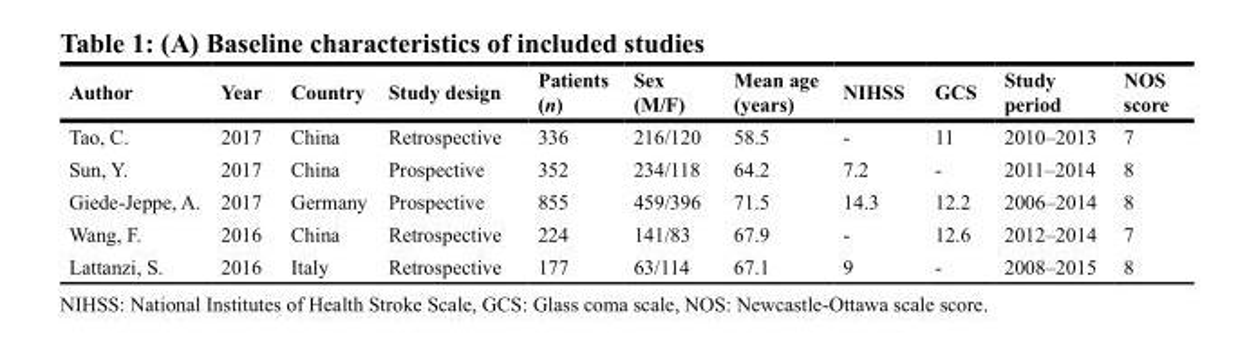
<table><thead><tr><td>Author</td><td>Year</td><td>Country</td><td>Study design</td><td>Patients (n)</td><td>Sex (M/F)</td><td>Mean age (years)</td><td>NIHSS</td><td>GCS</td><td>Study period</td><td>NOS score</td></tr></thead><tbody><tr><td>Tao, C.</td><td>2017</td><td>China</td><td>Retrospective</td><td>336</td><td>216/120</td><td>58.5</td><td>-</td><td>11</td><td>2010–2013</td><td>7</td></tr><tr><td>Sun, Y.</td><td>2017</td><td>China</td><td>Prospective</td><td>352</td><td>234/118</td><td>64.2</td><td>7.2</td><td>-</td><td>2011–2014</td><td>8</td></tr><tr><td>Giede-Jeppe, A.</td><td>2017</td><td>Germany</td><td>Prospective</td><td>855</td><td>459/396</td><td>71.5</td><td>14.3</td><td>12.2</td><td>2006–2014</td><td>8</td></tr><tr><td>Wang, F.</td><td>2016</td><td>China</td><td>Retrospective</td><td>224</td><td>141/83</td><td>67.9</td><td>-</td><td>12.6</td><td>2012–2014</td><td>7</td></tr><tr><td>Lattanzi, S.</td><td>2016</td><td>Italy</td><td>Retrospective</td><td>177</td><td>63/114</td><td>67.1</td><td>9</td><td>-</td><td>2008–2015</td><td>8</td></tr></tbody></table>